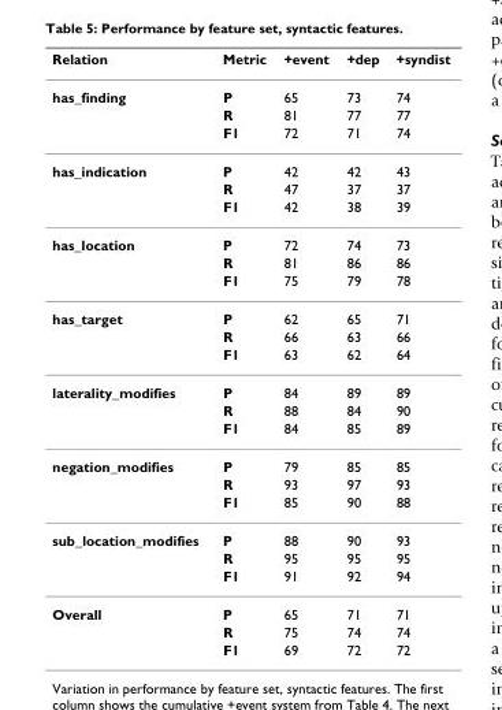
<table><thead><tr><td>Relation</td><td>Metric</td><td>+event</td><td>+dep</td><td>+syndist</td></tr></thead><tbody><tr><td rowspan="3">has_finding</td><td>P</td><td>65</td><td>73</td><td>74</td></tr><tr><td>R</td><td>81</td><td>77</td><td>77</td></tr><tr><td>F1</td><td>72</td><td>71</td><td>74</td></tr><tr><td rowspan="3">has_indication</td><td>P</td><td>42</td><td>42</td><td>43</td></tr><tr><td>R</td><td>47</td><td>37</td><td>37</td></tr><tr><td>F1</td><td>42</td><td>38</td><td>39</td></tr><tr><td rowspan="3">has_location</td><td>P</td><td>72</td><td>74</td><td>73</td></tr><tr><td>R</td><td>81</td><td>86</td><td>86</td></tr><tr><td>F1</td><td>75</td><td>79</td><td>78</td></tr><tr><td rowspan="3">has_target</td><td>P</td><td>62</td><td>65</td><td>71</td></tr><tr><td>R</td><td>66</td><td>63</td><td>66</td></tr><tr><td>F1</td><td>63</td><td>62</td><td>64</td></tr><tr><td rowspan="3">laterality_modifies</td><td>P</td><td>84</td><td>89</td><td>89</td></tr><tr><td>R</td><td>88</td><td>84</td><td>90</td></tr><tr><td>F1</td><td>84</td><td>85</td><td>89</td></tr><tr><td rowspan="3">negation_modifies</td><td>P</td><td>79</td><td>85</td><td>85</td></tr><tr><td>R</td><td>93</td><td>97</td><td>93</td></tr><tr><td>F1</td><td>85</td><td>90</td><td>88</td></tr><tr><td rowspan="3">sub_location_modifies</td><td>P</td><td>88</td><td>90</td><td>93</td></tr><tr><td>R</td><td>95</td><td>95</td><td>95</td></tr><tr><td>F1</td><td>91</td><td>92</td><td>94</td></tr><tr><td rowspan="3">Overall</td><td>P</td><td>65</td><td>71</td><td>71</td></tr><tr><td>R</td><td>75</td><td>74</td><td>74</td></tr><tr><td>F1</td><td>69</td><td>72</td><td>72</td></tr></tbody></table>